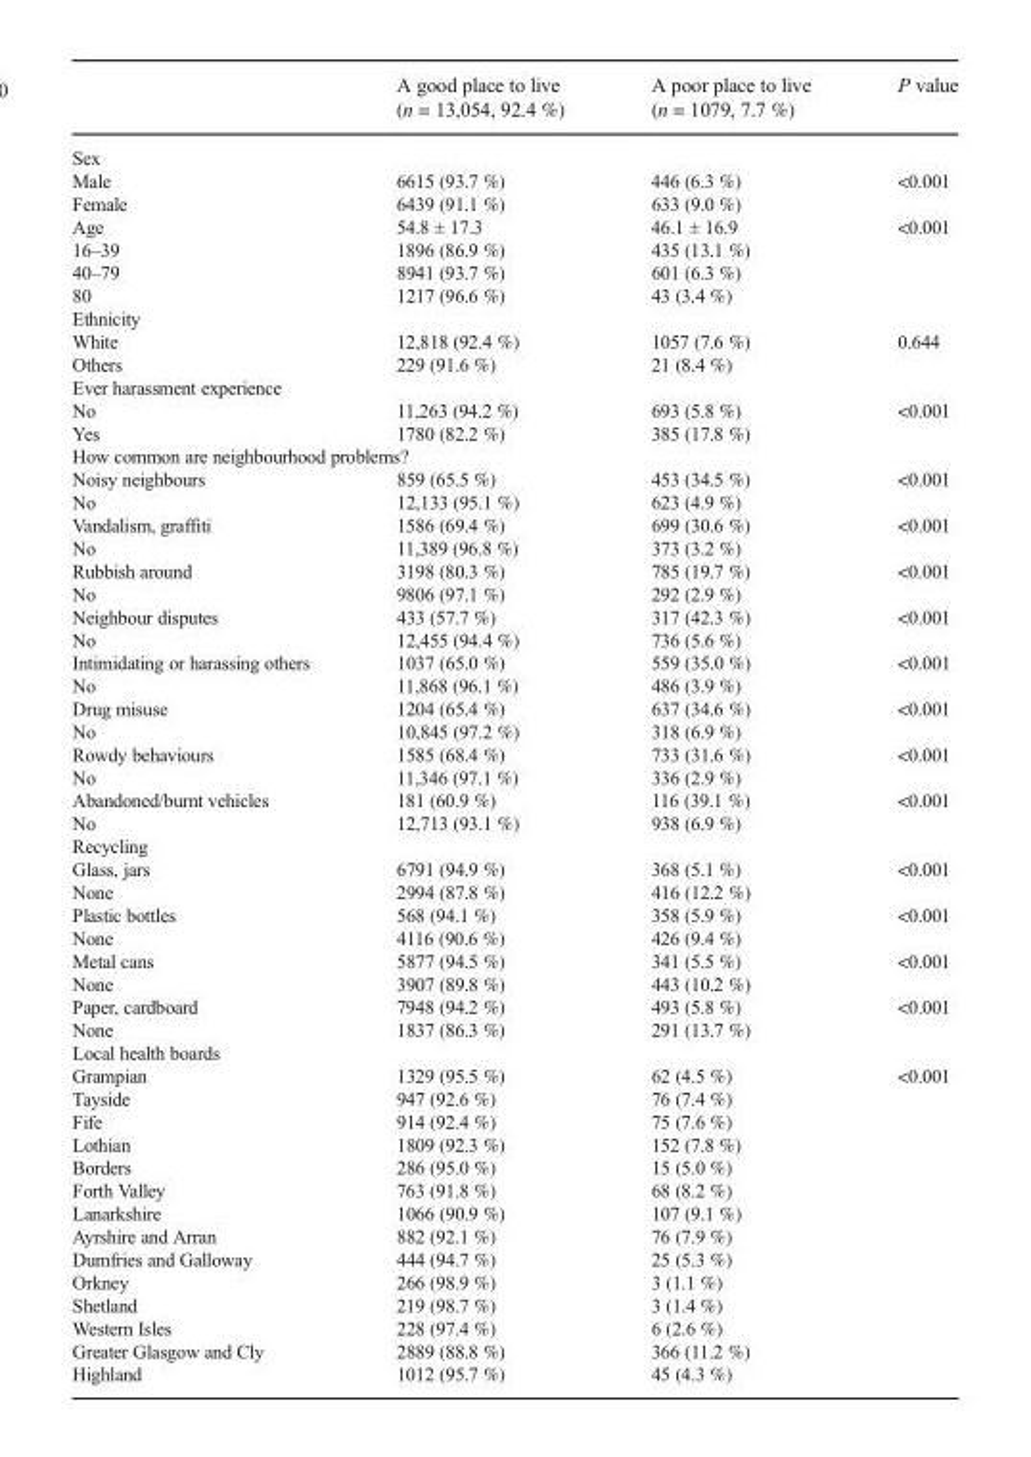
<table><thead><tr><td></td><td>A good place to live (n = 13,054, 92.4 %)</td><td>A poor place to live (n = 1079, 7.7 %)</td><td>P value</td></tr></thead><tbody><tr><td colspan="4">Sex</td></tr><tr><td>Male</td><td>6615 (93.7 %)</td><td>446 (6.3 %)</td><td rowspan="2">&lt;0.001</td></tr><tr><td>Female</td><td>6439 (91.1 %)</td><td>633 (9.0 %)</td></tr><tr><td>Age</td><td>54.8 ± 17.3</td><td>46.1 ± 16.9</td><td rowspan="4">&lt;0.001</td></tr><tr><td>16–39</td><td>1896 (86.9 %)</td><td>435 (13.1 %)</td></tr><tr><td>40–79</td><td>8941 (93.7 %)</td><td>601 (6.3 %)</td></tr><tr><td>80</td><td>1217 (96.6 %)</td><td>43 (3.4 %)</td></tr><tr><td colspan="4">Ethnicity</td></tr><tr><td>White</td><td>12,818 (92.4 %)</td><td>1057 (7.6 %)</td><td rowspan="2">0.644</td></tr><tr><td>Others</td><td>229 (91.6 %)</td><td>21 (8.4 %)</td></tr><tr><td colspan="4">Ever harassment experience</td></tr><tr><td>No</td><td>11,263 (94.2 %)</td><td>693 (5.8 %)</td><td rowspan="2">&lt;0.001</td></tr><tr><td>Yes</td><td>1780 (82.2 %)</td><td>385 (17.8 %)</td></tr><tr><td colspan="4">How common are neighbourhood problems?</td></tr><tr><td>Noisy neighbours</td><td>859 (65.5 %)</td><td>453 (34.5 %)</td><td rowspan="2">&lt;0.001</td></tr><tr><td>No</td><td>12,133 (95.1 %)</td><td>623 (4.9 %)</td></tr><tr><td>Vandalism, graffiti</td><td>1586 (69.4 %)</td><td>699 (30.6 %)</td><td rowspan="2">&lt;0.001</td></tr><tr><td>No</td><td>11,389 (96.8 %)</td><td>373 (3.2 %)</td></tr><tr><td>Rubbish around</td><td>3198 (80.3 %)</td><td>785 (19.7 %)</td><td rowspan="2">&lt;0.001</td></tr><tr><td>No</td><td>9806 (97.1 %)</td><td>292 (2.9 %)</td></tr><tr><td>Neighbour disputes</td><td>433 (57.7 %)</td><td>317 (42.3 %)</td><td rowspan="2">&lt;0.001</td></tr><tr><td>No</td><td>12,455 (94.4 %)</td><td>736 (5.6 %)</td></tr><tr><td>Intimidating or harassing others</td><td>1037 (65.0 %)</td><td>559 (35.0 %)</td><td rowspan="2">&lt;0.001</td></tr><tr><td>No</td><td>11,868 (96.1 %)</td><td>486 (3.9 %)</td></tr><tr><td>Drug misuse</td><td>1204 (65.4 %)</td><td>637 (34.6 %)</td><td rowspan="2">&lt;0.001</td></tr><tr><td>No</td><td>10,845 (97.2 %)</td><td>318 (6.9 %)</td></tr><tr><td>Rowdy behaviours</td><td>1585 (68.4 %)</td><td>733 (31.6 %)</td><td rowspan="2">&lt;0.001</td></tr><tr><td>No</td><td>11,346 (97.1 %)</td><td>336 (2.9 %)</td></tr><tr><td>Abandoned/burnt vehicles</td><td>181 (60.9 %)</td><td>116 (39.1 %)</td><td rowspan="2">&lt;0.001</td></tr><tr><td>No</td><td>12,713 (93.1 %)</td><td>938 (6.9 %)</td></tr><tr><td colspan="4">Recycling</td></tr><tr><td>Glass, jars</td><td>6791 (94.9 %)</td><td>368 (5.1 %)</td><td rowspan="2">&lt;0.001</td></tr><tr><td>None</td><td>2994 (87.8 %)</td><td>416 (12.2 %)</td></tr><tr><td>Plastic bottles</td><td>568 (94.1 %)</td><td>358 (5.9 %)</td><td rowspan="2">&lt;0.001</td></tr><tr><td>None</td><td>4116 (90.6 %)</td><td>426 (9.4 %)</td></tr><tr><td>Metal cans</td><td>5877 (94.5 %)</td><td>341 (5.5 %)</td><td rowspan="2">&lt;0.001</td></tr><tr><td>None</td><td>3907 (89.8 %)</td><td>443 (10.2 %)</td></tr><tr><td>Paper, cardboard</td><td>7948 (94.2 %)</td><td>493 (5.8 %)</td><td rowspan="2">&lt;0.001</td></tr><tr><td>None</td><td>1837 (86.3 %)</td><td>291 (13.7 %)</td></tr><tr><td colspan="4">Local health boards</td></tr><tr><td>Grampian</td><td>1329 (95.5 %)</td><td>62 (4.5 %)</td><td rowspan="14">&lt;0.001</td></tr><tr><td>Tayside</td><td>947 (92.6 %)</td><td>76 (7.4 %)</td></tr><tr><td>Fife</td><td>914 (92.4 %)</td><td>75 (7.6 %)</td></tr><tr><td>Lothian</td><td>1809 (92.3 %)</td><td>152 (7.8 %)</td></tr><tr><td>Borders</td><td>286 (95.0 %)</td><td>15 (5.0 %)</td></tr><tr><td>Forth Valley</td><td>763 (91.8 %)</td><td>68 (8.2 %)</td></tr><tr><td>Lanarkshire</td><td>1066 (90.9 %)</td><td>107 (9.1 %)</td></tr><tr><td>Ayrshire and Arran</td><td>882 (92.1 %)</td><td>76 (7.9 %)</td></tr><tr><td>Dumfries and Galloway</td><td>444 (94.7 %)</td><td>25 (5.3 %)</td></tr><tr><td>Orkney</td><td>266 (98.9 %)</td><td>3 (1.1 %)</td></tr><tr><td>Shetland</td><td>219 (98.7 %)</td><td>3 (1.4 %)</td></tr><tr><td>Western Isles</td><td>228 (97.4 %)</td><td>6 (2.6 %)</td></tr><tr><td>Greater Glasgow and Cly</td><td>2889 (88.8 %)</td><td>366 (11.2 %)</td></tr><tr><td>Highland</td><td>1012 (95.7 %)</td><td>45 (4.3 %)</td></tr></tbody></table>